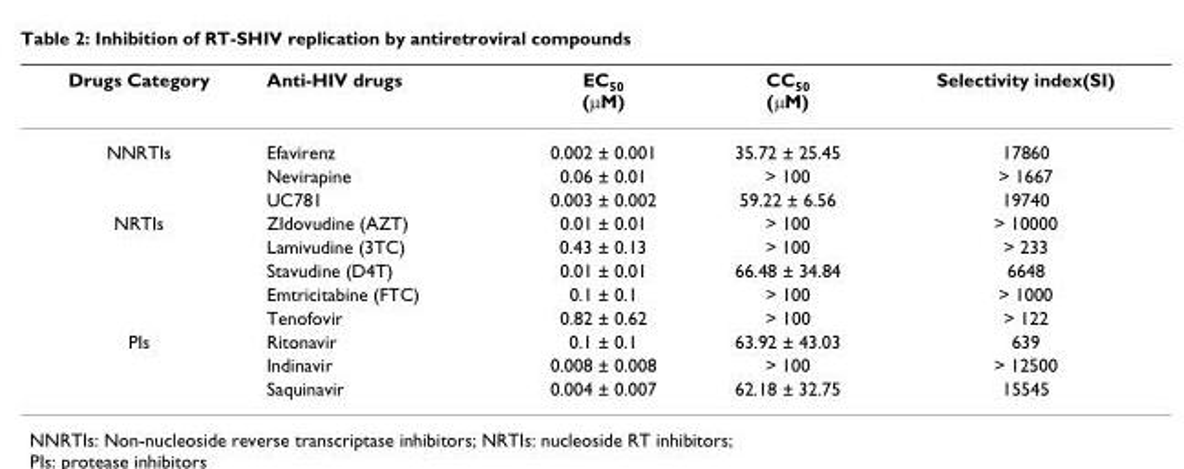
<table><thead><tr><td>Drugs Category</td><td>Anti-HIV drugs</td><td>EC<sub>50</sub> (μM)</td><td>CC<sub>50</sub> (μM)</td><td>Selectivity index(SI)</td></tr></thead><tbody><tr><td rowspan="3">NNRTIs</td><td>Efavirenz</td><td>0.002 ± 0.001</td><td>35.72 ± 25.45</td><td>17860</td></tr><tr><td>Nevirapine</td><td>0.06 ± 0.01</td><td>&gt; 100</td><td>&gt; 1667</td></tr><tr><td>UC781</td><td>0.003 ± 0.002</td><td>59.22 ± 6.56</td><td>19740</td></tr><tr><td rowspan="5">NRTIs</td><td>ZIdovudine (AZT)</td><td>0.01 ± 0.01</td><td>&gt; 100</td><td>&gt; 10000</td></tr><tr><td>Lamivudine (3TC)</td><td>0.43 ± 0.13</td><td>&gt; 100</td><td>&gt; 233</td></tr><tr><td>Stavudine (D4T)</td><td>0.01 ± 0.01</td><td>66.48 ± 34.84</td><td>6648</td></tr><tr><td>Emtricitabine (FTC)</td><td>0.1 ± 0.1</td><td>&gt; 100</td><td>&gt; 1000</td></tr><tr><td>Tenofovir</td><td>0.82 ± 0.62</td><td>&gt; 100</td><td>&gt; 122</td></tr><tr><td rowspan="3">PIs</td><td>Ritonavir</td><td>0.1 ± 0.1</td><td>63.92 ± 43.03</td><td>639</td></tr><tr><td>Indinavir</td><td>0.008 ± 0.008</td><td>&gt; 100</td><td>&gt; 12500</td></tr><tr><td>Saquinavir</td><td>0.004 ± 0.007</td><td>62.18 ± 32.75</td><td>15545</td></tr></tbody></table>